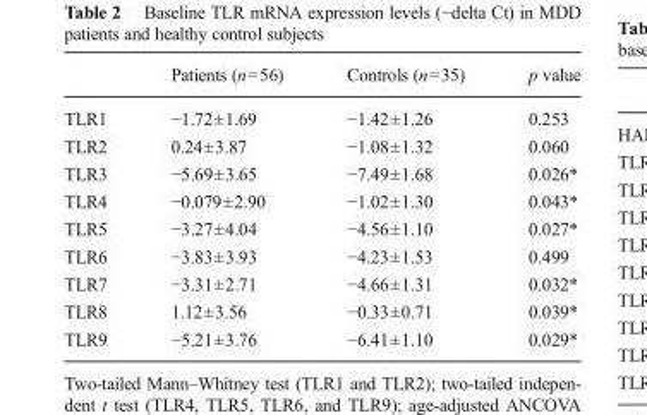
<table><thead><tr><td></td><td>Patients (n=56)</td><td>Controls (n=35)</td><td>p value</td></tr></thead><tbody><tr><td>TLR1</td><td>−1.72±1.69</td><td>−1.42±1.26</td><td>0.253</td></tr><tr><td>TLR2</td><td>0.24±3.87</td><td>−1.08±1.32</td><td>0.060</td></tr><tr><td>TLR3</td><td>−5.69±3.65</td><td>−7.49±1.68</td><td>0.026*</td></tr><tr><td>TLR4</td><td>−0.079±2.90</td><td>−1.02±1.30</td><td>0.043*</td></tr><tr><td>TLR5</td><td>−3.27±4.04</td><td>−4.56±1.10</td><td>0.027*</td></tr><tr><td>TLR6</td><td>−3.83±3.93</td><td>−4.23±1.53</td><td>0.499</td></tr><tr><td>TLR7</td><td>−3.31±2.71</td><td>−4.66±1.31</td><td>0.032*</td></tr><tr><td>TLR8</td><td>1.12±3.56</td><td>−0.33±0.71</td><td>0.039*</td></tr><tr><td>TLR9</td><td>−5.21±3.76</td><td>−6.41±1.10</td><td>0.029*</td></tr></tbody></table>